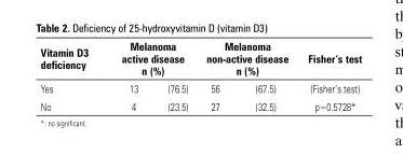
<table><thead><tr><td rowspan="2">Vitamin D3 deficiency Yes</td><td colspan="2">Melanoma active disease n (%)</td><td colspan="2">Melanoma non-active disease n (%)</td><td rowspan="2">Fisher’s test (Fisher’s test)</td></tr><tr><td>13</td><td>(76.5)</td><td>56</td><td>(67.5)</td></tr></thead><tbody><tr><td>No</td><td>4</td><td>(23.5)</td><td>27</td><td>(32.5)</td><td>p=0.5728*</td></tr></tbody></table>